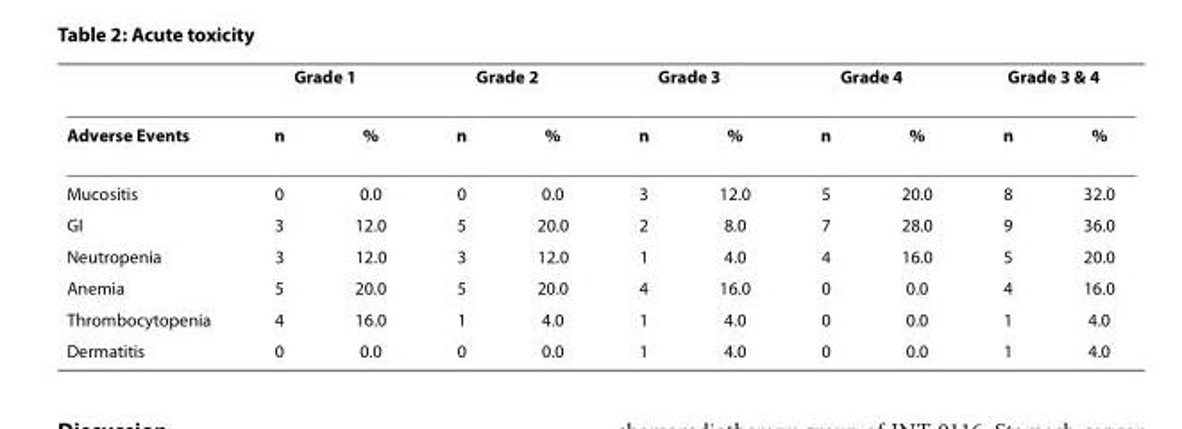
<table><thead><tr><td rowspan="2">Adverse Events</td><td colspan="2">Grade 1</td><td colspan="2">Grade 2</td><td colspan="2">Grade 3</td><td colspan="2">Grade 4</td><td colspan="2">Grade 3 &amp; 4</td></tr><tr><td>n</td><td>%</td><td>n</td><td>%</td><td>n</td><td>%</td><td>n</td><td>%</td><td>n</td><td>%</td></tr></thead><tbody><tr><td>Mucositis</td><td>0</td><td>0.0</td><td>0</td><td>0.0</td><td>3</td><td>12.0</td><td>5</td><td>20.0</td><td>8</td><td>32.0</td></tr><tr><td>GI</td><td>3</td><td>12.0</td><td>5</td><td>20.0</td><td>2</td><td>8.0</td><td>7</td><td>28.0</td><td>9</td><td>36.0</td></tr><tr><td>Neutropenia</td><td>3</td><td>12.0</td><td>3</td><td>12.0</td><td>1</td><td>4.0</td><td>4</td><td>16.0</td><td>5</td><td>20.0</td></tr><tr><td>Anemia</td><td>5</td><td>20.0</td><td>5</td><td>20.0</td><td>4</td><td>16.0</td><td>0</td><td>0.0</td><td>4</td><td>16.0</td></tr><tr><td>Thrombocytopenia</td><td>4</td><td>16.0</td><td>1</td><td>4.0</td><td>1</td><td>4.0</td><td>0</td><td>0.0</td><td>1</td><td>4.0</td></tr><tr><td>Dermatitis</td><td>0</td><td>0.0</td><td>0</td><td>0.0</td><td>1</td><td>4.0</td><td>0</td><td>0.0</td><td>1</td><td>4.0</td></tr></tbody></table>